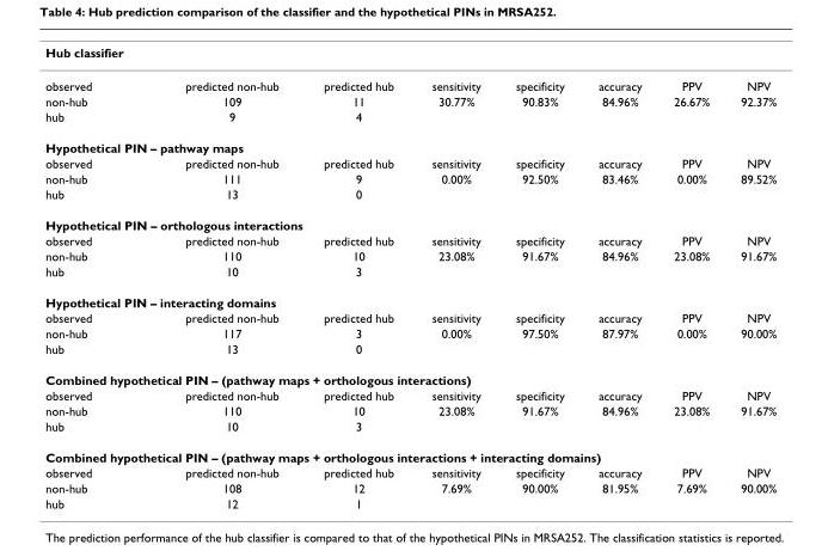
<table><tbody><tr><td colspan="8">Hub classifier</td></tr><tr><td>observed</td><td>predicted non-hub</td><td>predicted hub</td><td>sensitivity</td><td>specificity</td><td>accuracy</td><td>PPV</td><td>NPV</td></tr><tr><td>non-hub</td><td>109</td><td>11</td><td>30.77%</td><td>90.83%</td><td>84.96%</td><td>26.67%</td><td>92.37%</td></tr><tr><td>hub</td><td>9</td><td>4</td><td></td><td></td><td></td><td></td><td></td></tr><tr><td colspan="8">Hypothetical PIN – pathway maps</td></tr><tr><td>observed</td><td>predicted non-hub</td><td>predicted hub</td><td>sensitivity</td><td>specificity</td><td>accuracy</td><td>PPV</td><td>NPV</td></tr><tr><td>non-hub</td><td>111</td><td>9</td><td>0.00%</td><td>92.50%</td><td>83.46%</td><td>0.00%</td><td>89.52%</td></tr><tr><td>hub</td><td>13</td><td>0</td><td></td><td></td><td></td><td></td><td></td></tr><tr><td colspan="8">Hypothetical PIN – orthologous interactions</td></tr><tr><td>observed</td><td>predicted non-hub</td><td>predicted hub</td><td>sensitivity</td><td>specificity</td><td>accuracy</td><td>PPV</td><td>NPV</td></tr><tr><td>non-hub</td><td>110</td><td>10</td><td>23.08%</td><td>91.67%</td><td>84.96%</td><td>23.08%</td><td>91.67%</td></tr><tr><td>hub</td><td>10</td><td>3</td><td></td><td></td><td></td><td></td><td></td></tr><tr><td colspan="8">Hypothetical PIN – interacting domains</td></tr><tr><td>observed</td><td>predicted non-hub</td><td>predicted hub</td><td>sensitivity</td><td>specificity</td><td>accuracy</td><td>PPV</td><td>NPV</td></tr><tr><td>non-hub</td><td>117</td><td>3</td><td>0.00%</td><td>97.50%</td><td>87.97%</td><td>0.00%</td><td>90.00%</td></tr><tr><td>hub</td><td>13</td><td>0</td><td></td><td></td><td></td><td></td><td></td></tr><tr><td colspan="8">Combined hypothetical PIN – (pathway maps + orthologous interactions)</td></tr><tr><td>observed</td><td>predicted non-hub</td><td>predicted hub</td><td>sensitivity</td><td>specificity</td><td>accuracy</td><td>PPV</td><td>NPV</td></tr><tr><td>non-hub</td><td>110</td><td>10</td><td>23.08%</td><td>91.67%</td><td>84.96%</td><td>23.08%</td><td>91.67%</td></tr><tr><td>hub</td><td>10</td><td>3</td><td></td><td></td><td></td><td></td><td></td></tr><tr><td colspan="8">Combined hypothetical PIN – (pathway maps + orthologous interactions + interacting domains)</td></tr><tr><td>observed</td><td>predicted non-hub</td><td>predicted hub</td><td>sensitivity</td><td>specificity</td><td>accuracy</td><td>PPV</td><td>NPV</td></tr><tr><td>non-hub</td><td>108</td><td>12</td><td>7.69%</td><td>90.00%</td><td>81.95%</td><td>7.69%</td><td>90.00%</td></tr><tr><td>hub</td><td>12</td><td>1</td><td></td><td></td><td></td><td></td><td></td></tr></tbody></table>